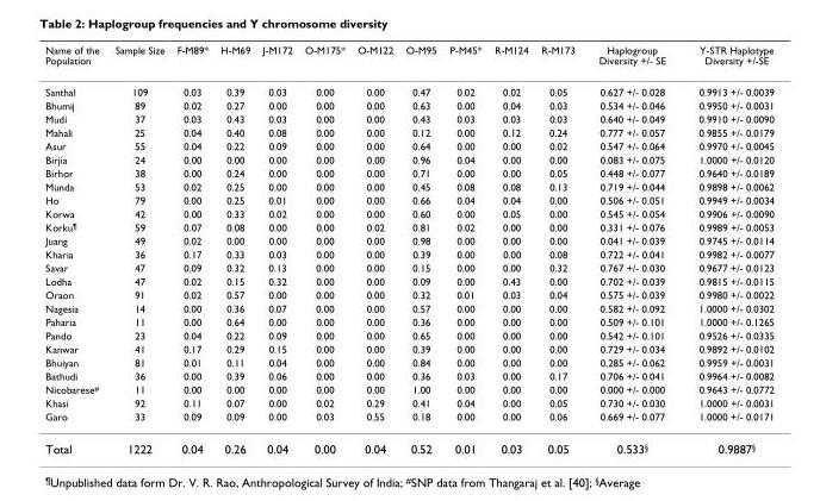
<table><thead><tr><td>Name of the Population</td><td>Sample Size</td><td>F-M89*</td><td>H-M69</td><td>J-M172</td><td>O-M175*</td><td>O-M122</td><td>O-M95</td><td>P-M45*</td><td>R-M124</td><td>R-M173</td><td>Haplogroup Diversity +/- SE</td><td>Y-STR Haplotype Diversity +/-SE</td></tr></thead><tbody><tr><td>Santhal</td><td>109</td><td>0.03</td><td>0.39</td><td>0.03</td><td>0.00</td><td>0.00</td><td>0.47</td><td>0.02</td><td>0.02</td><td>0.05</td><td>0.627 +/- 0.028</td><td>0.9913 +/- 0.0039</td></tr><tr><td>Bhumij</td><td>89</td><td>0.02</td><td>0.27</td><td>0.00</td><td>0.00</td><td>0.00</td><td>0.63</td><td>0.00</td><td>0.04</td><td>0.03</td><td>0.534 +/- 0.046</td><td>0.9950 +/- 0.0031</td></tr><tr><td>Mudi</td><td>37</td><td>0.03</td><td>0.43</td><td>0.03</td><td>0.00</td><td>0.00</td><td>0.43</td><td>0.03</td><td>0.03</td><td>0.03</td><td>0.640 +/- 0.049</td><td>0.9910 +/- 0.0090</td></tr><tr><td>Mahali</td><td>25</td><td>0.04</td><td>0.40</td><td>0.08</td><td>0.00</td><td>0.00</td><td>0.12</td><td>0.00</td><td>0.12</td><td>0.24</td><td>0.777 +/- 0.057</td><td>0.9855 +/- 0.0179</td></tr><tr><td>Asur</td><td>55</td><td>0.04</td><td>0.22</td><td>0.09</td><td>0.00</td><td>0.00</td><td>0.64</td><td>0.00</td><td>0.00</td><td>0.02</td><td>0.547 +/- 0.064</td><td>0.9970 +/- 0.0045</td></tr><tr><td>Birjia</td><td>24</td><td>0.00</td><td>0.00</td><td>0.00</td><td>0.00</td><td>0.00</td><td>0.96</td><td>0.04</td><td>0.00</td><td>0.00</td><td>0.083 +/- 0.075</td><td>1.0000 +/- 0.0120</td></tr><tr><td>Birhor</td><td>38</td><td>0.00</td><td>0.24</td><td>0.00</td><td>0.00</td><td>0.00</td><td>0.71</td><td>0.00</td><td>0.00</td><td>0.05</td><td>0.448 +/- 0.077</td><td>0.9640 +/- 0.0189</td></tr><tr><td>Munda</td><td>53</td><td>0.02</td><td>0.25</td><td>0.00</td><td>0.00</td><td>0.00</td><td>0.45</td><td>0.08</td><td>0.08</td><td>0.13</td><td>0.719 +/- 0.044</td><td>0.9898 +/- 0.0062</td></tr><tr><td>Ho</td><td>79</td><td>0.00</td><td>0.25</td><td>0.01</td><td>0.00</td><td>0.00</td><td>0.66</td><td>0.04</td><td>0.04</td><td>0.00</td><td>0.506 +/- 0.051</td><td>0.9949 +/- 0.0034</td></tr><tr><td>Korwa</td><td>42</td><td>0.00</td><td>0.33</td><td>0.02</td><td>0.00</td><td>0.00</td><td>0.60</td><td>0.00</td><td>0.05</td><td>0.00</td><td>0.545 +/- 0.054</td><td>0.9906 +/- 0.0090</td></tr><tr><td>Korku<sup>¶</sup></td><td>59</td><td>0.07</td><td>0.08</td><td>0.00</td><td>0.00</td><td>0.02</td><td>0.81</td><td>0.02</td><td>0.00</td><td>0.00</td><td>0.331 +/- 0.076</td><td>0.9989 +/- 0.0053</td></tr><tr><td>Juang</td><td>49</td><td>0.02</td><td>0.00</td><td>0.00</td><td>0.00</td><td>0.00</td><td>0.98</td><td>0.00</td><td>0.00</td><td>0.00</td><td>0.041 +/- 0.039</td><td>0.9745 +/- 0.0114</td></tr><tr><td>Kharia</td><td>36</td><td>0.17</td><td>0.33</td><td>0.03</td><td>0.00</td><td>0.00</td><td>0.39</td><td>0.00</td><td>0.00</td><td>0.08</td><td>0.722 +/- 0.041</td><td>0.9982 +/- 0.0077</td></tr><tr><td>Savar</td><td>47</td><td>0.09</td><td>0.32</td><td>0.13</td><td>0.00</td><td>0.00</td><td>0.15</td><td>0.00</td><td>0.00</td><td>0.32</td><td>0.767 +/- 0.030</td><td>0.9677 +/- 0.0123</td></tr><tr><td>Lodha</td><td>47</td><td>0.02</td><td>0.15</td><td>0.32</td><td>0.00</td><td>0.00</td><td>0.09</td><td>0.00</td><td>0.43</td><td>0.00</td><td>0.702 +/- 0.039</td><td>0.9815 +/- 0.0115</td></tr><tr><td>Oraon</td><td>91</td><td>0.02</td><td>0.57</td><td>0.00</td><td>0.00</td><td>0.00</td><td>0.32</td><td>0.01</td><td>0.03</td><td>0.04</td><td>0.575 +/- 0.039</td><td>0.9980 +/- 0.0022</td></tr><tr><td>Nagesia</td><td>14</td><td>0.00</td><td>0.36</td><td>0.07</td><td>0.00</td><td>0.00</td><td>0.57</td><td>0.00</td><td>0.00</td><td>0.00</td><td>0.582 +/- 0.092</td><td>1.0000 +/- 0.0302</td></tr><tr><td>Paharia</td><td>11</td><td>0.00</td><td>0.64</td><td>0.00</td><td>0.00</td><td>0.00</td><td>0.36</td><td>0.00</td><td>0.00</td><td>0.00</td><td>0.509 +/- 0.101</td><td>1.0000 +/- 0.1265</td></tr><tr><td>Pando</td><td>23</td><td>0.04</td><td>0.22</td><td>0.09</td><td>0.00</td><td>0.00</td><td>0.65</td><td>0.00</td><td>0.00</td><td>0.00</td><td>0.542 +/- 0.101</td><td>0.9526 +/- 0.0335</td></tr><tr><td>Kanwar</td><td>41</td><td>0.17</td><td>0.29</td><td>0.15</td><td>0.00</td><td>0.00</td><td>0.39</td><td>0.00</td><td>0.00</td><td>0.00</td><td>0.729 +/- 0.034</td><td>0.9892 +/- 0.0102</td></tr><tr><td>Bhuiyan</td><td>81</td><td>0.01</td><td>0.11</td><td>0.04</td><td>0.00</td><td>0.00</td><td>0.84</td><td>0.00</td><td>0.00</td><td>0.00</td><td>0.285 +/- 0.062</td><td>0.9959 +/- 0.0031</td></tr><tr><td>Bathudi</td><td>36</td><td>0.00</td><td>0.39</td><td>0.06</td><td>0.00</td><td>0.00</td><td>0.36</td><td>0.03</td><td>0.00</td><td>0.17</td><td>0.706 +/- 0.041</td><td>0.9964 +/- 0.0082</td></tr><tr><td>Nicobarese<sup>#</sup></td><td>11</td><td>0.00</td><td>0.00</td><td>0.00</td><td>0.00</td><td>0.00</td><td>1.00</td><td>0.00</td><td>0.00</td><td>0.00</td><td>0.000 +/- 0.000</td><td>0.9643 +/- 0.0772</td></tr><tr><td>Khasi</td><td>92</td><td>0.11</td><td>0.07</td><td>0.00</td><td>0.02</td><td>0.29</td><td>0.41</td><td>0.04</td><td>0.00</td><td>0.05</td><td>0.730 +/- 0.030</td><td>1.0000 +/- 0.0031</td></tr><tr><td>Garo</td><td>33</td><td>0.09</td><td>0.09</td><td>0.00</td><td>0.03</td><td>0.55</td><td>0.18</td><td>0.00</td><td>0.00</td><td>0.06</td><td>0.669 +/- 0.077</td><td>1.0000 +/- 0.0171</td></tr><tr><td>Total</td><td>1222</td><td>0.04</td><td>0.26</td><td>0.04</td><td>0.00</td><td>0.04</td><td>0.52</td><td>0.01</td><td>0.03</td><td>0.05</td><td>0.533<sup>§</sup></td><td>0.9887<sup>§</sup></td></tr></tbody></table>